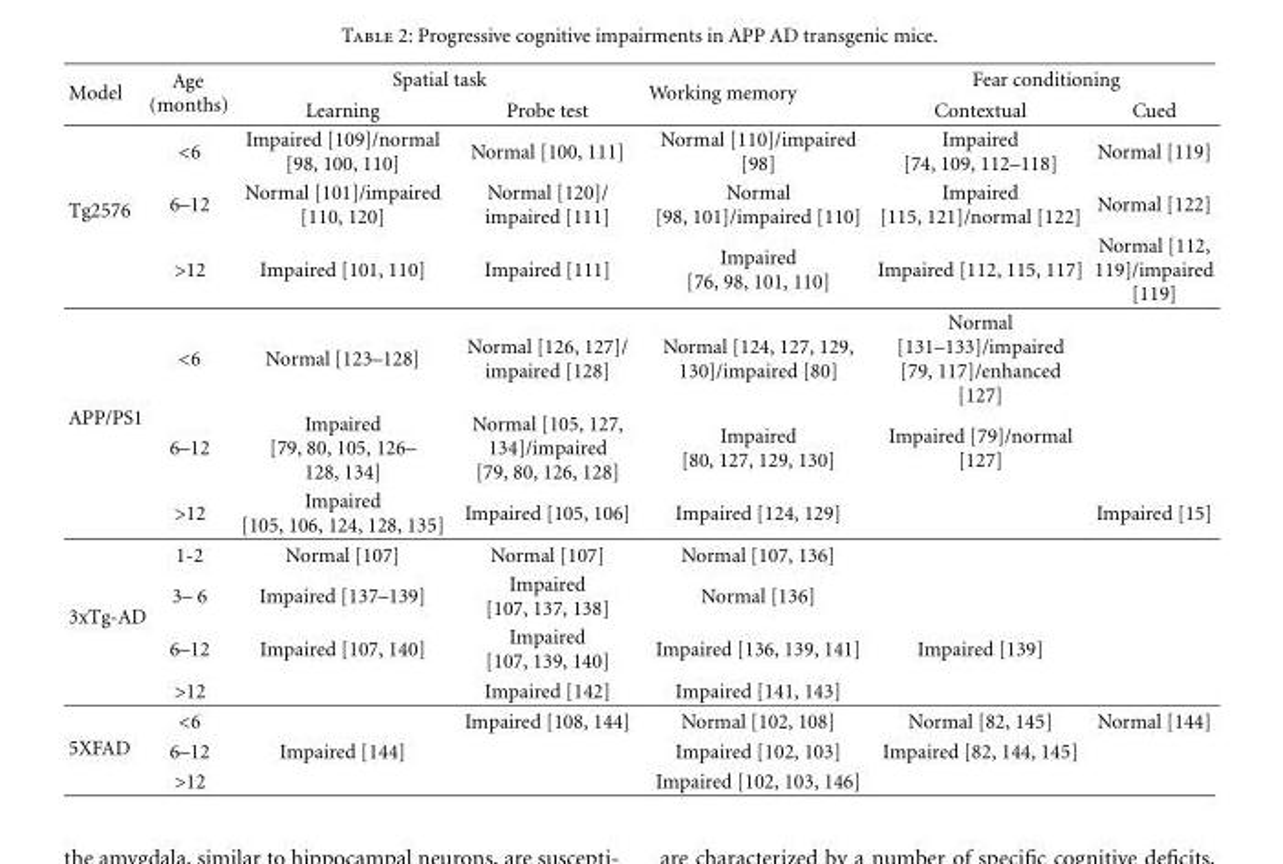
<table><thead><tr><td rowspan="2">Model</td><td rowspan="2">Age (months)</td><td colspan="2">Spatial task</td><td rowspan="2">Working memory</td><td colspan="2">Fear conditioning</td></tr><tr><td>Learning</td><td>Probe test</td><td>Contextual</td><td>Cued</td></tr></thead><tbody><tr><td rowspan="3">Tg2576</td><td>&lt;6</td><td>Impaired [109]/normal [98, 100, 110]</td><td>Normal [100, 111]</td><td>Normal [110]/impaired [98]</td><td>Impaired [74, 109, 112–118]</td><td>Normal [119]</td></tr><tr><td>6–12</td><td>Normal [101]/impaired [110, 120]</td><td>Normal [120]/ impaired [111]</td><td>Normal [98, 101]/impaired [110]</td><td>Impaired [115, 121]/normal [122]</td><td>Normal [122]</td></tr><tr><td>&gt;12</td><td>Impaired [101, 110]</td><td>Impaired [111]</td><td>Impaired [76, 98, 101, 110]</td><td>Impaired [112, 115, 117]</td><td>Normal [112, 119]/impaired [119]</td></tr><tr><td rowspan="3">APP/PS1</td><td>&lt;6</td><td>Normal [123–128]</td><td>Normal [126, 127]/ impaired [128]</td><td>Normal [124, 127, 129, 130]/impaired [80]</td><td>Normal [131–133]/impaired [79, 117]/enhanced [127]</td><td></td></tr><tr><td>6–12</td><td>Impaired [79, 80, 105, 126– 128, 134]</td><td>Normal [105, 127, 134]/impaired [79, 80, 126, 128]</td><td>Impaired [80, 127, 129, 130]</td><td>Impaired [79]/normal [127]</td><td></td></tr><tr><td>&gt;12</td><td>Impaired [105, 106, 124, 128, 135]</td><td>Impaired [105, 106]</td><td>Impaired [124, 129]</td><td></td><td>Impaired [15]</td></tr><tr><td rowspan="4">3xTg-AD</td><td>1-2</td><td>Normal [107]</td><td>Normal [107]</td><td>Normal [107, 136]</td><td></td><td></td></tr><tr><td>3– 6</td><td>Impaired [137–139]</td><td>Impaired [107, 137, 138]</td><td>Normal [136]</td><td></td><td></td></tr><tr><td>6–12</td><td>Impaired [107, 140]</td><td>Impaired [107, 139, 140]</td><td>Impaired [136, 139, 141]</td><td>Impaired [139]</td><td></td></tr><tr><td>&gt;12</td><td></td><td>Impaired [142]</td><td>Impaired [141, 143]</td><td></td><td></td></tr><tr><td rowspan="3">5XFAD</td><td>&lt;6</td><td></td><td>Impaired [108, 144]</td><td>Normal [102, 108]</td><td>Normal [82, 145]</td><td>Normal [144]</td></tr><tr><td>6–12</td><td>Impaired [144]</td><td></td><td>Impaired [102, 103]</td><td>Impaired [82, 144, 145]</td><td></td></tr><tr><td>&gt;12</td><td></td><td></td><td>Impaired [102, 103, 146]</td><td></td><td></td></tr></tbody></table>